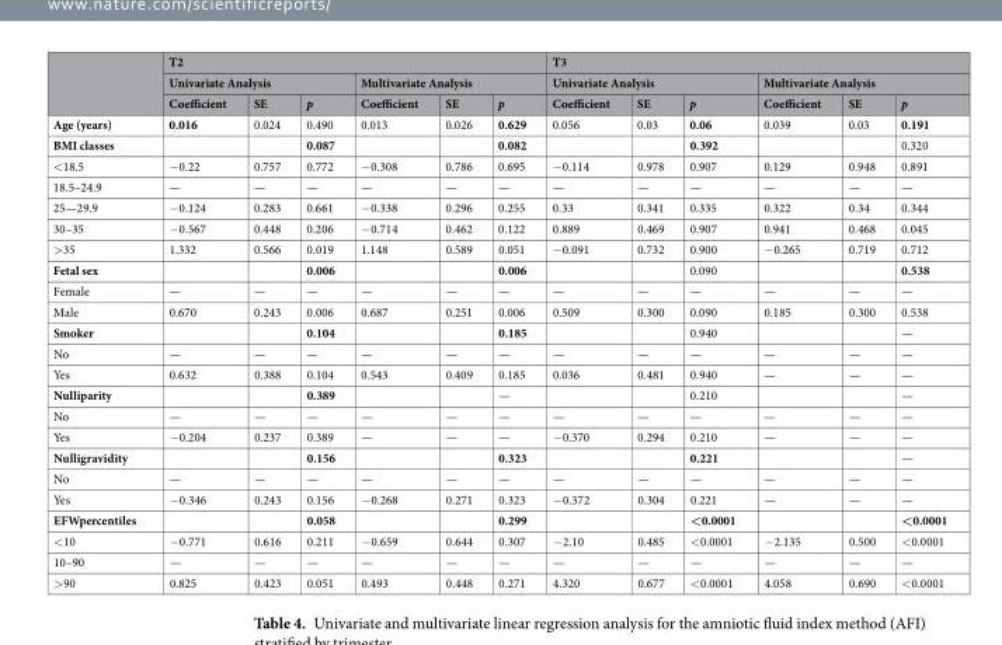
<table><thead><tr><td rowspan="3"></td><td colspan="6">T2</td><td colspan="6">T3</td></tr><tr><td colspan="3">Univariate Analysis</td><td colspan="3">Multivariate Analysis</td><td colspan="3">Univariate Analysis</td><td colspan="3">Multivariate Analysis</td></tr><tr><td>Coefficient</td><td>SE</td><td>p</td><td>Coefficient</td><td>SE</td><td>p</td><td>Coefficient</td><td>SE</td><td>p</td><td>Coefficient</td><td>SE</td><td>p</td></tr></thead><tbody><tr><td>Age (years)</td><td>0.016</td><td>0.024</td><td>0.490</td><td>0.013</td><td>0.026</td><td>0.629</td><td>0.056</td><td>0.03</td><td>0.06</td><td>0.039</td><td>0.03</td><td>0.191</td></tr><tr><td>BMI classes</td><td></td><td></td><td>0.087</td><td></td><td></td><td>0.082</td><td></td><td></td><td>0.392</td><td></td><td></td><td>0.320</td></tr><tr><td>&lt;18.5</td><td>−0.22</td><td>0.757</td><td>0.772</td><td>−0.308</td><td>0.786</td><td>0.695</td><td>−0.114</td><td>0.978</td><td>0.907</td><td>0.129</td><td>0.948</td><td>0.891</td></tr><tr><td>18.5–24.9</td><td>—</td><td>—</td><td>—</td><td>—</td><td>—</td><td>—</td><td>—</td><td>—</td><td>—</td><td>—</td><td>—</td><td>—</td></tr><tr><td>25—29.9</td><td>−0.124</td><td>0.283</td><td>0.661</td><td>−0.338</td><td>0.296</td><td>0.255</td><td>0.33</td><td>0.341</td><td>0.335</td><td>0.322</td><td>0.34</td><td>0.344</td></tr><tr><td>30–35</td><td>−0.567</td><td>0.448</td><td>0.206</td><td>−0.714</td><td>0.462</td><td>0.122</td><td>0.889</td><td>0.469</td><td>0.907</td><td>0.941</td><td>0.468</td><td>0.045</td></tr><tr><td>&gt;35</td><td>1.332</td><td>0.566</td><td>0.019</td><td>1.148</td><td>0.589</td><td>0.051</td><td>−0.091</td><td>0.732</td><td>0.900</td><td>−0.265</td><td>0.719</td><td>0.712</td></tr><tr><td>Fetal sex</td><td></td><td></td><td>0.006</td><td></td><td></td><td>0.006</td><td></td><td></td><td>0.090</td><td></td><td></td><td>0.538</td></tr><tr><td>Female</td><td>—</td><td>—</td><td>—</td><td>—</td><td>—</td><td>—</td><td>—</td><td>—</td><td>—</td><td>—</td><td>—</td><td>—</td></tr><tr><td>Male</td><td>0.670</td><td>0.243</td><td>0.006</td><td>0.687</td><td>0.251</td><td>0.006</td><td>0.509</td><td>0.300</td><td>0.090</td><td>0.185</td><td>0.300</td><td>0.538</td></tr><tr><td>Smoker</td><td></td><td></td><td>0.104</td><td></td><td></td><td>0.185</td><td></td><td></td><td>0.940</td><td></td><td></td><td>—</td></tr><tr><td>No</td><td>—</td><td>—</td><td>—</td><td>—</td><td>—</td><td>—</td><td>—</td><td>—</td><td>—</td><td>—</td><td>—</td><td>—</td></tr><tr><td>Yes</td><td>0.632</td><td>0.388</td><td>0.104</td><td>0.543</td><td>0.409</td><td>0.185</td><td>0.036</td><td>0.481</td><td>0.940</td><td>—</td><td>—</td><td>—</td></tr><tr><td>Nulliparity</td><td></td><td></td><td>0.389</td><td></td><td></td><td>—</td><td></td><td></td><td>0.210</td><td></td><td></td><td>—</td></tr><tr><td>No</td><td>—</td><td>—</td><td>—</td><td>—</td><td>—</td><td>—</td><td>—</td><td>—</td><td>—</td><td>—</td><td>—</td><td>—</td></tr><tr><td>Yes</td><td>−0.204</td><td>0.237</td><td>0.389</td><td>—</td><td>—</td><td>—</td><td>−0.370</td><td>0.294</td><td>0.210</td><td>—</td><td>—</td><td>—</td></tr><tr><td>Nulligravidity</td><td></td><td></td><td>0.156</td><td></td><td></td><td>0.323</td><td></td><td></td><td>0.221</td><td></td><td></td><td>—</td></tr><tr><td>No</td><td>—</td><td>—</td><td>—</td><td>—</td><td>—</td><td>—</td><td>—</td><td>—</td><td>—</td><td>—</td><td>—</td><td>—</td></tr><tr><td>Yes</td><td>−0.346</td><td>0.243</td><td>0.156</td><td>−0.268</td><td>0.271</td><td>0.323</td><td>−0.372</td><td>0.304</td><td>0.221</td><td>—</td><td>—</td><td>—</td></tr><tr><td>EFWpercentiles</td><td></td><td></td><td>0.058</td><td></td><td></td><td>0.299</td><td></td><td></td><td>&lt;0.0001</td><td></td><td></td><td>&lt;0.0001</td></tr><tr><td>&lt;10</td><td>−0.771</td><td>0.616</td><td>0.211</td><td>−0.659</td><td>0.644</td><td>0.307</td><td>−2.10</td><td>0.485</td><td>&lt;0.0001</td><td>−2.135</td><td>0.500</td><td>&lt;0.0001</td></tr><tr><td>10–90</td><td>—</td><td>—</td><td>—</td><td>—</td><td>—</td><td>—</td><td>—</td><td>—</td><td>—</td><td>—</td><td>—</td><td>—</td></tr><tr><td>&gt;90</td><td>0.825</td><td>0.423</td><td>0.051</td><td>0.493</td><td>0.448</td><td>0.271</td><td>4.320</td><td>0.677</td><td>&lt;0.0001</td><td>4.058</td><td>0.690</td><td>&lt;0.0001</td></tr></tbody></table>